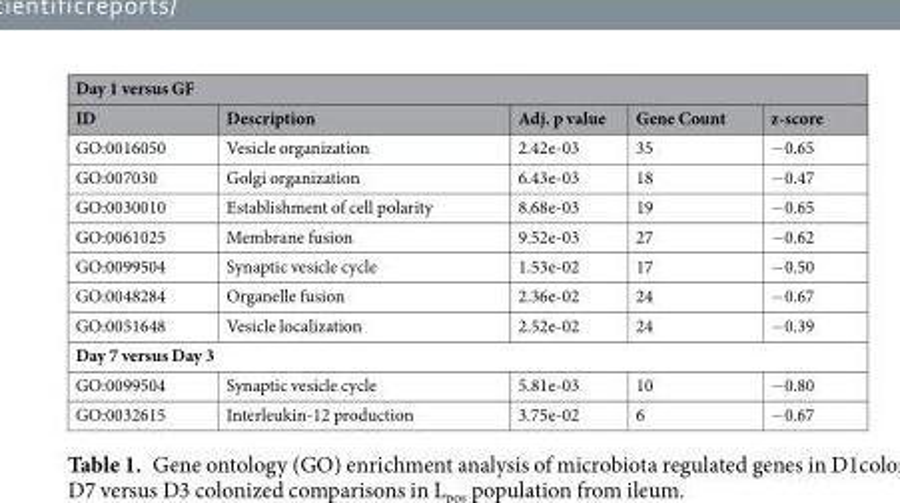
<table><thead><tr><td colspan="5">Day 1 versus GF</td></tr><tr><td>ID</td><td>Description</td><td>Adj. p value</td><td>Gene Count</td><td>z-score</td></tr></thead><tbody><tr><td>GO:0016050</td><td>Vesicle organization</td><td>2.42e-03</td><td>35</td><td>−0.65</td></tr><tr><td>GO:007030</td><td>Golgi organization</td><td>6.43e-03</td><td>18</td><td>−0.47</td></tr><tr><td>GO:0030010</td><td>Establishment of cell polarity</td><td>8.68e-03</td><td>19</td><td>−0.65</td></tr><tr><td>GO:0061025</td><td>Membrane fusion</td><td>9.52e-03</td><td>27</td><td>−0.62</td></tr><tr><td>GO:0099504</td><td>Synaptic vesicle cycle</td><td>1.53e-02</td><td>17</td><td>−0.50</td></tr><tr><td>GO:0048284</td><td>Organelle fusion</td><td>2.36e-02</td><td>24</td><td>−0.67</td></tr><tr><td>GO:0051648</td><td>Vesicle localization</td><td>2.52e-02</td><td>24</td><td>−0.39</td></tr><tr><td colspan="5">Day 7 versus Day 3</td></tr><tr><td>GO:0099504</td><td>Synaptic vesicle cycle</td><td>5.81e-03</td><td>10</td><td>−0.80</td></tr><tr><td>GO:0032615</td><td>Interleukin-12 production</td><td>3.75e-02</td><td>6</td><td>−0.67</td></tr></tbody></table>